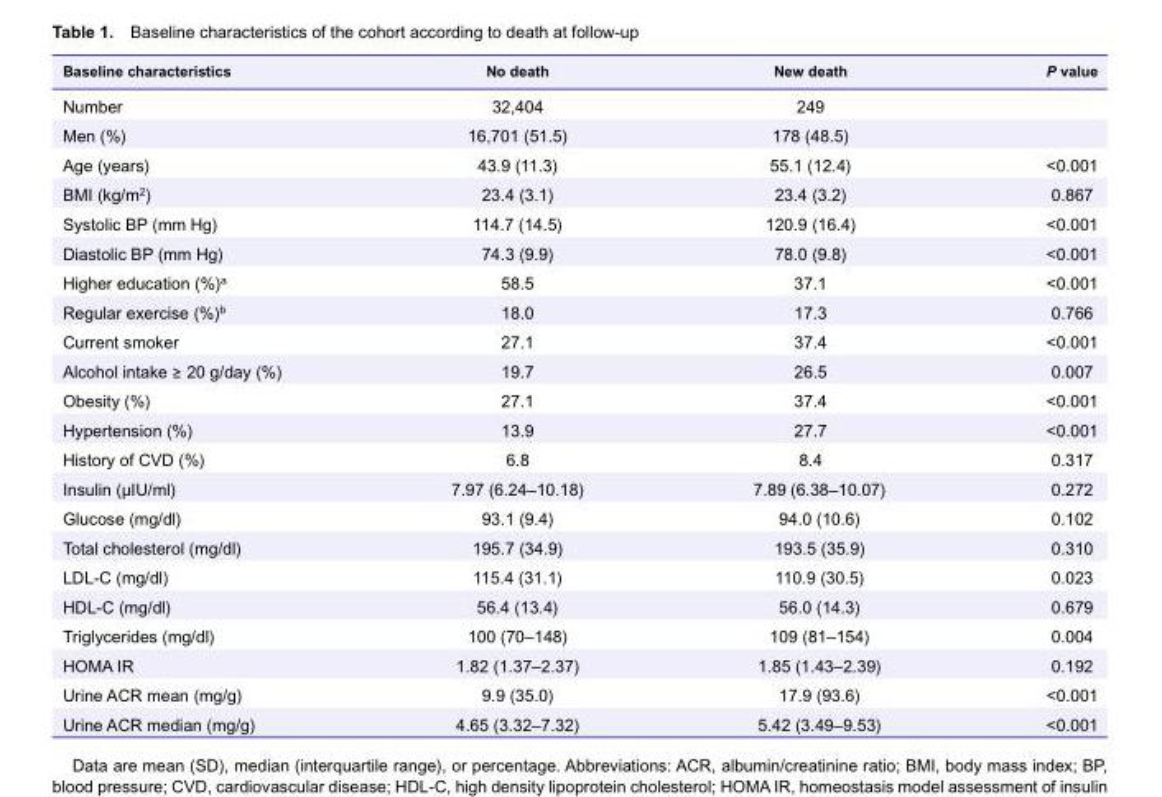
<table><thead><tr><td>Baseline characteristics</td><td>No death</td><td>New death</td><td>P value</td></tr></thead><tbody><tr><td>Number</td><td>32,404</td><td>249</td><td></td></tr><tr><td>Men (%)</td><td>16,701 (51.5)</td><td>178 (48.5)</td><td></td></tr><tr><td>Age (years)</td><td>43.9 (11.3)</td><td>55.1 (12.4)</td><td>&lt;0.001</td></tr><tr><td>BMI (kg/m<sup>2</sup>)</td><td>23.4 (3.1)</td><td>23.4 (3.2)</td><td>0.867</td></tr><tr><td>Systolic BP (mm Hg)</td><td>114.7 (14.5)</td><td>120.9 (16.4)</td><td>&lt;0.001</td></tr><tr><td>Diastolic BP (mm Hg)</td><td>74.3 (9.9)</td><td>78.0 (9.8)</td><td>&lt;0.001</td></tr><tr><td>Higher education (%)<sup>a</sup></td><td>58.5</td><td>37.1</td><td>&lt;0.001</td></tr><tr><td>Regular exercise (%)<sup>b</sup></td><td>18.0</td><td>17.3</td><td>0.766</td></tr><tr><td>Current smoker</td><td>27.1</td><td>37.4</td><td>&lt;0.001</td></tr><tr><td>Alcohol intake ≥ 20 g/day (%)</td><td>19.7</td><td>26.5</td><td>0.007</td></tr><tr><td>Obesity (%)</td><td>27.1</td><td>37.4</td><td>&lt;0.001</td></tr><tr><td>Hypertension (%)</td><td>13.9</td><td>27.7</td><td>&lt;0.001</td></tr><tr><td>History of CVD (%)</td><td>6.8</td><td>8.4</td><td>0.317</td></tr><tr><td>Insulin (μIU/ml)</td><td>7.97 (6.24–10.18)</td><td>7.89 (6.38–10.07)</td><td>0.272</td></tr><tr><td>Glucose (mg/dl)</td><td>93.1 (9.4)</td><td>94.0 (10.6)</td><td>0.102</td></tr><tr><td>Total cholesterol (mg/dl)</td><td>195.7 (34.9)</td><td>193.5 (35.9)</td><td>0.310</td></tr><tr><td>LDL-C (mg/dl)</td><td>115.4 (31.1)</td><td>110.9 (30.5)</td><td>0.023</td></tr><tr><td>HDL-C (mg/dl)</td><td>56.4 (13.4)</td><td>56.0 (14.3)</td><td>0.679</td></tr><tr><td>Triglycerides (mg/dl)</td><td>100 (70–148)</td><td>109 (81–154)</td><td>0.004</td></tr><tr><td>HOMA IR</td><td>1.82 (1.37–2.37)</td><td>1.85 (1.43–2.39)</td><td>0.192</td></tr><tr><td>Urine ACR mean (mg/g)</td><td>9.9 (35.0)</td><td>17.9 (93.6)</td><td>&lt;0.001</td></tr><tr><td>Urine ACR median (mg/g)</td><td>4.65 (3.32–7.32)</td><td>5.42 (3.49–9.53)</td><td>&lt;0.001</td></tr></tbody></table>